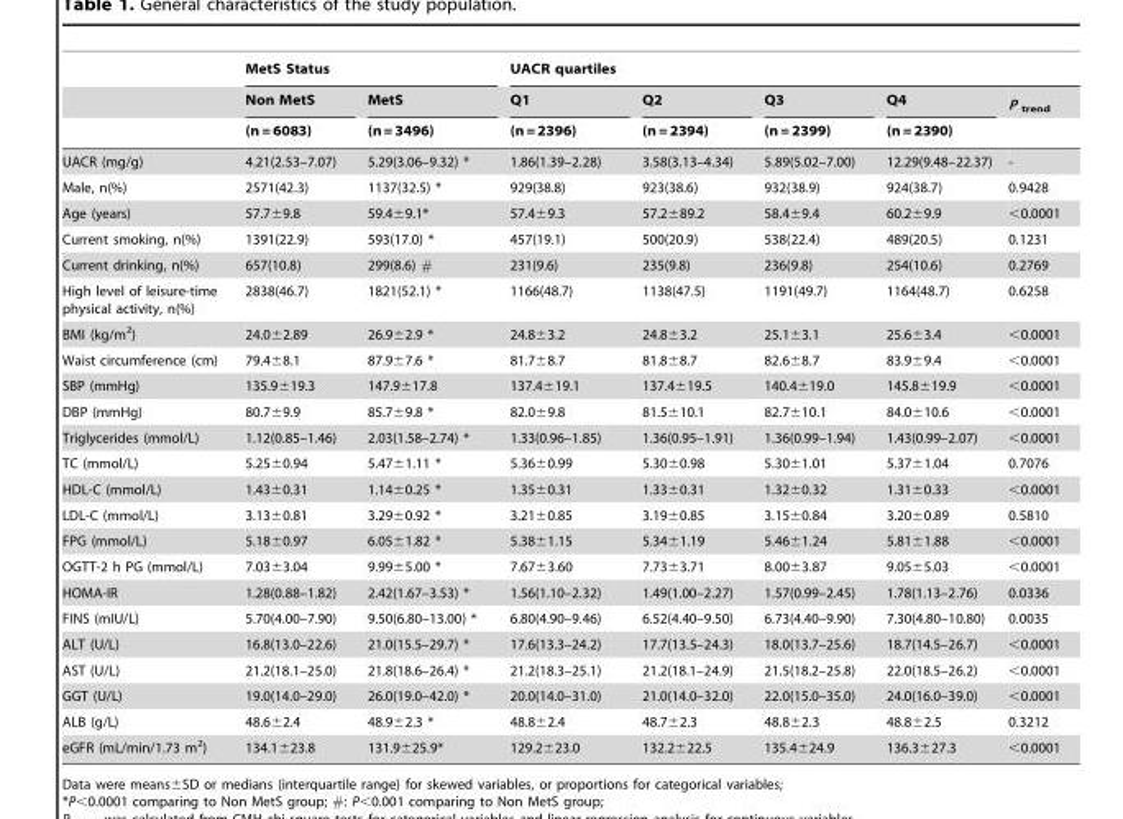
<table><thead><tr><td rowspan="3"></td><td colspan="2">MetS Status</td><td colspan="5">UACR quartiles</td></tr><tr><td rowspan="2">Non MetS (n = 6083)</td><td rowspan="2">MetS (n = 3496)</td><td rowspan="2">Q1 (n = 2396)</td><td rowspan="2">Q2 (n = 2394)</td><td rowspan="2">Q3 (n = 2399)</td><td rowspan="2">Q4 (n = 2390)</td><td rowspan="2">P <sub>trend</sub></td></tr><tr></tr></thead><tbody><tr><td>UACR (mg/g)</td><td>4.21(2.53–7.07)</td><td>5.29(3.06–9.32) *</td><td>1.86(1.39–2.28)</td><td>3.58(3.13–4.34)</td><td>5.89(5.02–7.00)</td><td>12.29(9.48–22.37)</td><td>-</td></tr><tr><td>Male, n(%)</td><td>2571(42.3)</td><td>1137(32.5) *</td><td>929(38.8)</td><td>923(38.6)</td><td>932(38.9)</td><td>924(38.7)</td><td>0.9428</td></tr><tr><td>Age (years)</td><td>57.7±9.8</td><td>59.4±9.1*</td><td>57.4±9.3</td><td>57.2±89.2</td><td>58.4±9.4</td><td>60.2±9.9</td><td>&lt;0.0001</td></tr><tr><td>Current smoking, n(%)</td><td>1391(22.9)</td><td>593(17.0) *</td><td>457(19.1)</td><td>500(20.9)</td><td>538(22.4)</td><td>489(20.5)</td><td>0.1231</td></tr><tr><td>Current drinking, n(%)</td><td>657(10.8)</td><td>299(8.6) #</td><td>231(9.6)</td><td>235(9.8)</td><td>236(9.8)</td><td>254(10.6)</td><td>0.2769</td></tr><tr><td>High level of leisure-time physical activity, n(%)</td><td>2838(46.7)</td><td>1821(52.1) *</td><td>1166(48.7)</td><td>1138(47.5)</td><td>1191(49.7)</td><td>1164(48.7)</td><td>0.6258</td></tr><tr><td>BMI (kg/m<sup>2</sup>)</td><td>24.0±2.89</td><td>26.9±2.9 *</td><td>24.8±3.2</td><td>24.8±3.2</td><td>25.1±3.1</td><td>25.6±3.4</td><td>&lt;0.0001</td></tr><tr><td>Waist circumference (cm)</td><td>79.4±8.1</td><td>87.9±7.6 *</td><td>81.7±8.7</td><td>81.8±8.7</td><td>82.6±8.7</td><td>83.9±9.4</td><td>&lt;0.0001</td></tr><tr><td>SBP (mmHg)</td><td>135.9±19.3</td><td>147.9±17.8</td><td>137.4±19.1</td><td>137.4±19.5</td><td>140.4±19.0</td><td>145.8±19.9</td><td>&lt;0.0001</td></tr><tr><td>DBP (mmHg)</td><td>80.7±9.9</td><td>85.7±9.8 *</td><td>82.0±9.8</td><td>81.5±10.1</td><td>82.7±10.1</td><td>84.0±10.6</td><td>&lt;0.0001</td></tr><tr><td>Triglycerides (mmol/L)</td><td>1.12(0.85–1.46)</td><td>2.03(1.58–2.74) *</td><td>1.33(0.96–1.85)</td><td>1.36(0.95–1.91)</td><td>1.36(0.99–1.94)</td><td>1.43(0.99–2.07)</td><td>&lt;0.0001</td></tr><tr><td>TC (mmol/L)</td><td>5.25±0.94</td><td>5.47±1.11 *</td><td>5.36±0.99</td><td>5.30±0.98</td><td>5.30±1.01</td><td>5.37±1.04</td><td>0.7076</td></tr><tr><td>HDL-C (mmol/L)</td><td>1.43±0.31</td><td>1.14±0.25 *</td><td>1.35±0.31</td><td>1.33±0.31</td><td>1.32±0.32</td><td>1.31±0.33</td><td>&lt;0.0001</td></tr><tr><td>LDL-C (mmol/L)</td><td>3.13±0.81</td><td>3.29±0.92 *</td><td>3.21±0.85</td><td>3.19±0.85</td><td>3.15±0.84</td><td>3.20±0.89</td><td>0.5810</td></tr><tr><td>FPG (mmol/L)</td><td>5.18±0.97</td><td>6.05±1.82 *</td><td>5.38±1.15</td><td>5.34±1.19</td><td>5.46±1.24</td><td>5.81±1.88</td><td>&lt;0.0001</td></tr><tr><td>OGTT-2 h PG (mmol/L)</td><td>7.03±3.04</td><td>9.99±5.00 *</td><td>7.67±3.60</td><td>7.73±3.71</td><td>8.00±3.87</td><td>9.05±5.03</td><td>&lt;0.0001</td></tr><tr><td>HOMA-IR</td><td>1.28(0.88–1.82)</td><td>2.42(1.67–3.53) *</td><td>1.56(1.10–2.32)</td><td>1.49(1.00–2.27)</td><td>1.57(0.99–2.45)</td><td>1.78(1.13–2.76)</td><td>0.0336</td></tr><tr><td>FINS (mIU/L)</td><td>5.70(4.00–7.90)</td><td>9.50(6.80–13.00) *</td><td>6.80(4.90–9.46)</td><td>6.52(4.40–9.50)</td><td>6.73(4.40–9.90)</td><td>7.30(4.80–10.80)</td><td>0.0035</td></tr><tr><td>ALT (U/L)</td><td>16.8(13.0–22.6)</td><td>21.0(15.5–29.7) *</td><td>17.6(13.3–24.2)</td><td>17.7(13.5–24.3)</td><td>18.0(13.7–25.6)</td><td>18.7(14.5–26.7)</td><td>&lt;0.0001</td></tr><tr><td>AST (U/L)</td><td>21.2(18.1–25.0)</td><td>21.8(18.6–26.4) *</td><td>21.2(18.3–25.1)</td><td>21.2(18.1–24.9)</td><td>21.5(18.2–25.8)</td><td>22.0(18.5–26.2)</td><td>&lt;0.0001</td></tr><tr><td>GGT (U/L)</td><td>19.0(14.0–29.0)</td><td>26.0(19.0–42.0) *</td><td>20.0(14.0–31.0)</td><td>21.0(14.0–32.0)</td><td>22.0(15.0–35.0)</td><td>24.0(16.0–39.0)</td><td>&lt;0.0001</td></tr><tr><td>ALB (g/L)</td><td>48.6±2.4</td><td>48.9±2.3 *</td><td>48.8±2.4</td><td>48.7±2.3</td><td>48.8±2.3</td><td>48.8±2.5</td><td>0.3212</td></tr><tr><td>eGFR (mL/min/1.73 m<sup>2</sup>)</td><td>134.1±23.8</td><td>131.9±25.9*</td><td>129.2±23.0</td><td>132.2±22.5</td><td>135.4±24.9</td><td>136.3±27.3</td><td>&lt;0.0001</td></tr></tbody></table>